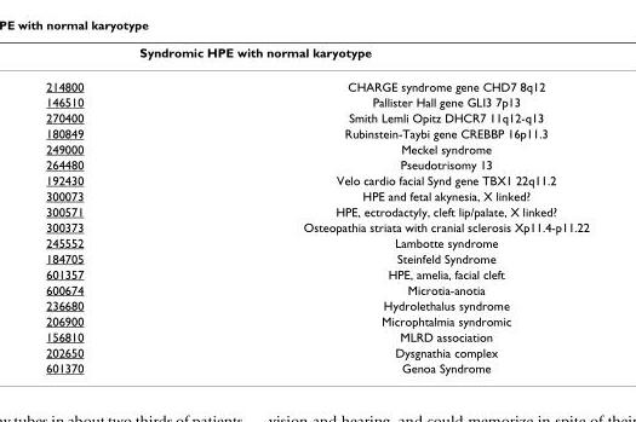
<table><thead><tr><td colspan="2">Syndromic HPE with normal karyotype</td></tr><tr><td>214800</td><td>CHARGE syndrome gene CHD7 8q12</td></tr></thead><tbody><tr><td>146510</td><td>Pallister Hall gene GLI3 7p13</td></tr><tr><td>270400</td><td>Smith Lemli Opitz DHCR7 11q12-q13</td></tr><tr><td>180849</td><td>Rubinstein-Taybi gene CREBBP 16p11.3</td></tr><tr><td>249000</td><td>Meckel syndrome</td></tr><tr><td>264480</td><td>Pseudotrisomy 13</td></tr><tr><td>192430</td><td>Velo cardio facial Synd gene TBX1 22q11.2</td></tr><tr><td>300073</td><td>HPE and fetal akynesia, X linked?</td></tr><tr><td>300571</td><td>HPE, ectrodactyly, cleft lip/palate, X linked?</td></tr><tr><td>300373</td><td>Osteopathia striata with cranial sclerosis Xp11.4-p11.22</td></tr><tr><td>245552</td><td>Lambotte syndrome</td></tr><tr><td>184705</td><td>Steinfeld Syndrome</td></tr><tr><td>601357</td><td>HPE, amelia, facial cleft</td></tr><tr><td>600674</td><td>Microtia-anotia</td></tr><tr><td>236680</td><td>Hydrolethalus syndrome</td></tr><tr><td>206900</td><td>Microphtalmia syndromic</td></tr><tr><td>156810</td><td>MLRD association</td></tr><tr><td>202650</td><td>Dysgnathia complex</td></tr><tr><td>601370</td><td>Genoa Syndrome</td></tr></tbody></table>